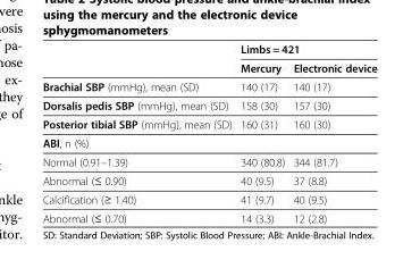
<table><thead><tr><td rowspan="2"></td><td colspan="2">Limbs = 421</td></tr><tr><td>Mercury</td><td>Electronic device</td></tr></thead><tbody><tr><td>Brachial SBP (mmHg), mean (SD)</td><td>140 (17)</td><td>140 (17)</td></tr><tr><td>Dorsalis pedis SBP (mmHg), mean (SD)</td><td>158 (30)</td><td>157 (30)</td></tr><tr><td>Posterior tibial SBP (mmHg), mean (SD)</td><td>160 (31)</td><td>160 (30)</td></tr><tr><td colspan="3">ABI, n (%)</td></tr><tr><td>Normal (0.91–1.39)</td><td>340 (80.8)</td><td>344 (81.7)</td></tr><tr><td>Abnormal (≤ 0.90)</td><td>40 (9.5)</td><td>37 (8.8)</td></tr><tr><td>Calcification (≥ 1.40)</td><td>41 (9.7)</td><td>40 (9.5)</td></tr><tr><td>Abnormal (≤ 0.70)</td><td>14 (3.3)</td><td>12 (2.8)</td></tr></tbody></table>